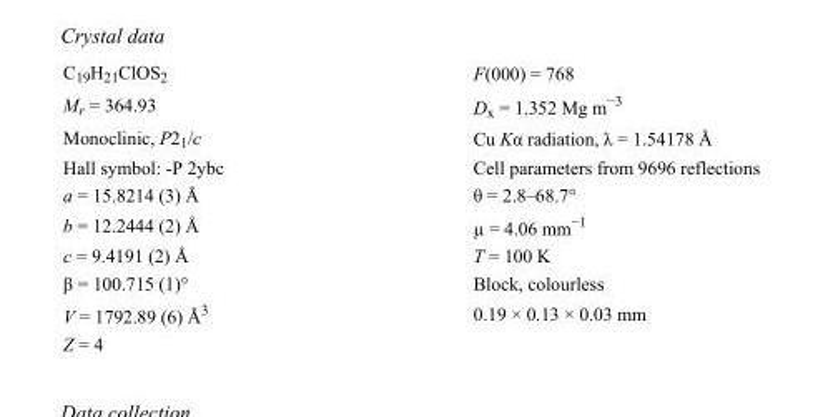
<table><tbody><tr><td>C<sub>19</sub>H<sub>21</sub>ClOS<sub>2</sub></td><td>F(000) = 768</td></tr><tr><td>M<sub>r</sub> = 364.93</td><td>D<sub>x</sub> = 1.352 Mg m<sup>−3</sup></td></tr><tr><td>Monoclinic, P2<sub>1</sub>/c</td><td>Cu Kα radiation, λ = 1.54178 Å</td></tr><tr><td>Hall symbol: -P 2ybc</td><td>Cell parameters from 9696 reflections</td></tr><tr><td>a = 15.8214 (3) Å</td><td>θ = 2.8–68.7°</td></tr><tr><td>b = 12.2444 (2) Å</td><td>µ = 4.06 mm<sup>−1</sup></td></tr><tr><td>c = 9.4191 (2) Å</td><td>T = 100 K</td></tr><tr><td>β = 100.715 (1)°</td><td>Block, colourless</td></tr><tr><td>V = 1792.89 (6) Å<sup>3</sup></td><td>0.19 × 0.13 × 0.03 mm</td></tr><tr><td>Z = 4</td><td></td></tr></tbody></table>